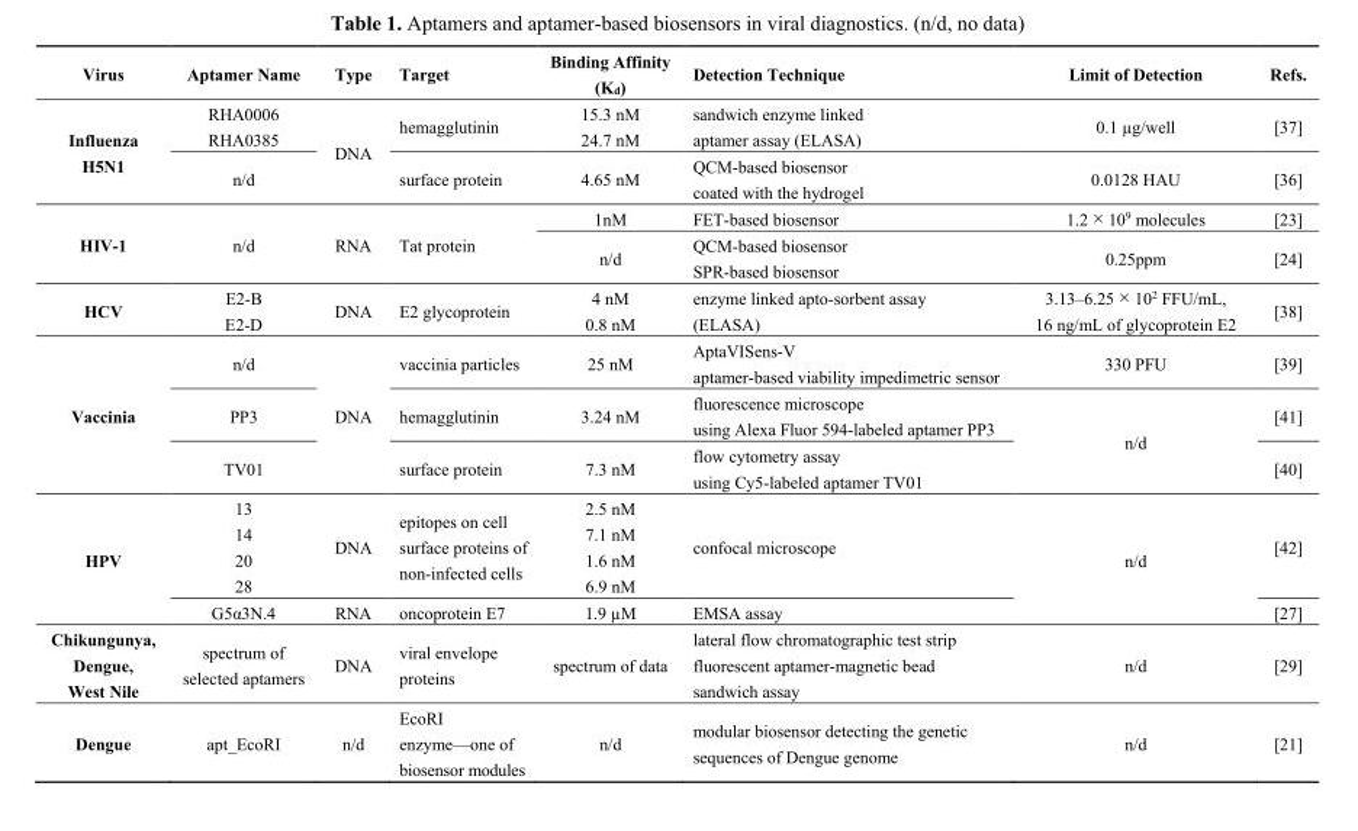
<table><thead><tr><td>Virus</td><td>Aptamer Name</td><td>Type</td><td>Target</td><td>Binding Affinity (K<sub>d</sub>)</td><td>Detection Technique</td><td>Limit of Detection</td><td>Refs.</td></tr></thead><tbody><tr><td rowspan="2">Influenza H5N1</td><td>RHA0006 RHA0385</td><td rowspan="2">DNA</td><td>hemagglutinin</td><td>15.3 nM 24.7 nM</td><td>sandwich enzyme linked aptamer assay (ELASA)</td><td>0.1 µg/well</td><td>[37]</td></tr><tr><td>n/d</td><td>surface protein</td><td>4.65 nM</td><td>QCM-based biosensor coated with the hydrogel</td><td>0.0128 HAU</td><td>[36]</td></tr><tr><td rowspan="2">HIV-1</td><td rowspan="2">n/d</td><td rowspan="2">RNA</td><td rowspan="2">Tat protein</td><td>1nM</td><td>FET-based biosensor</td><td>1.2 × 10<sup>9</sup> molecules</td><td>[23]</td></tr><tr><td>n/d</td><td>QCM-based biosensor SPR-based biosensor</td><td>0.25ppm</td><td>[24]</td></tr><tr><td>HCV</td><td>E2-B E2-D</td><td>DNA</td><td>E2 glycoprotein</td><td>4 nM 0.8 nM</td><td>enzyme linked apto-sorbent assay (ELASA)</td><td>3.13–6.25 × 10<sup>2</sup> FFU/mL, 16 ng/mL of glycoprotein E2</td><td>[38]</td></tr><tr><td rowspan="3">Vaccinia</td><td>n/d</td><td rowspan="3">DNA</td><td>vaccinia particles</td><td>25 nM</td><td>AptaVISens-V aptamer-based viability impedimetric sensor</td><td>330 PFU</td><td>[39]</td></tr><tr><td>PP3</td><td>hemagglutinin</td><td>3.24 nM</td><td>fluorescence microscope using Alexa Fluor 594-labeled aptamer PP3</td><td rowspan="2">n/d</td><td>[41]</td></tr><tr><td>TV01</td><td>surface protein</td><td>7.3 nM</td><td>flow cytometry assay using Cy5-labeled aptamer TV01</td><td>[40]</td></tr><tr><td rowspan="2">HPV</td><td>13 14 20 28</td><td>DNA</td><td>epitopes on cell surface proteins of non-infected cells</td><td>2.5 nM 7.1 nM 1.6 nM 6.9 nM</td><td>confocal microscope</td><td rowspan="2">n/d</td><td>[42]</td></tr><tr><td>G5α3N.4</td><td>RNA</td><td>oncoprotein E7</td><td>1.9 µM</td><td>EMSA assay</td><td>[27]</td></tr><tr><td>Chikungunya, Dengue, West Nile</td><td>spectrum of selected aptamers</td><td>DNA</td><td>viral envelope proteins</td><td>spectrum of data</td><td>lateral flow chromatographic test strip fluorescent aptamer-magnetic bead sandwich assay</td><td>n/d</td><td>[29]</td></tr><tr><td>Dengue</td><td>apt_EcoRI</td><td>n/d</td><td>EcoRI enzyme—one of biosensor modules</td><td>n/d</td><td>modular biosensor detecting the genetic sequences of Dengue genome</td><td>n/d</td><td>[21]</td></tr></tbody></table>